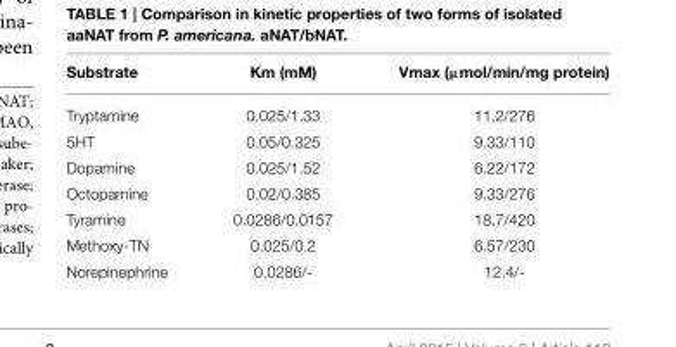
<table><thead><tr><td>Substrate</td><td>Km (mM)</td><td>Vmax (µmol/min/mg protein)</td></tr></thead><tbody><tr><td>Tryptamine</td><td>0.025/1.33</td><td>11.2/276</td></tr><tr><td>5HT</td><td>0.05/0.325</td><td>9.33/110</td></tr><tr><td>Dopamine</td><td>0.025/1.52</td><td>6.22/172</td></tr><tr><td>Octopamine</td><td>0.02/0.385</td><td>9.33/276</td></tr><tr><td>Tyramine</td><td>0.0286/0.0157</td><td>18.7/420</td></tr><tr><td>Methoxy-TN</td><td>0.025/0.2</td><td>6.57/230</td></tr><tr><td>Norepinephrine</td><td>0.0286/-</td><td>12.4/-</td></tr></tbody></table>